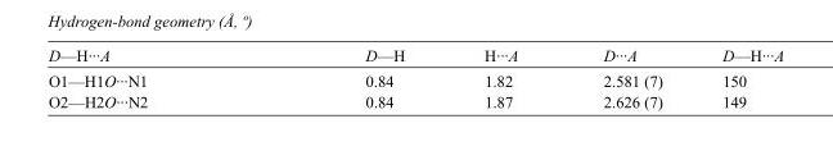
<table><tbody><tr><td>D—H···A</td><td>D—H</td><td>H···A</td><td>D···A</td><td>D—H···A</td></tr><tr><td>O1—H1O···N1</td><td>0.84</td><td>1.82</td><td>2.581 (7)</td><td>150</td></tr><tr><td>O2—H2O···N2</td><td>0.84</td><td>1.87</td><td>2.626 (7)</td><td>149</td></tr></tbody></table>